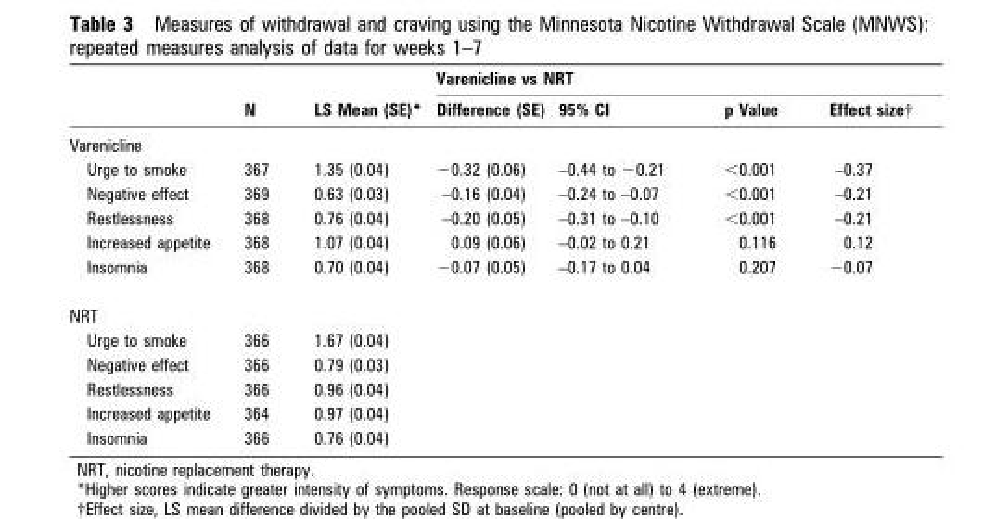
<table><thead><tr><td rowspan="2"></td><td rowspan="2">N</td><td rowspan="2">LS Mean (SE)*</td><td colspan="4">Varenicline vs NRT</td></tr><tr><td>Difference (SE)</td><td>95% CI</td><td>p Value</td><td>Effect size†</td></tr></thead><tbody><tr><td colspan="7">Varenicline</td></tr><tr><td>Urge to smoke</td><td>367</td><td>1.35 (0.04)</td><td>−0.32 (0.06)</td><td>–0.44 to −0.21</td><td>&lt;0.001</td><td>–0.37</td></tr><tr><td>Negative effect</td><td>369</td><td>0.63 (0.03)</td><td>–0.16 (0.04)</td><td>–0.24 to –0.07</td><td>&lt;0.001</td><td>–0.21</td></tr><tr><td>Restlessness</td><td>368</td><td>0.76 (0.04)</td><td>–0.20 (0.05)</td><td>–0.31 to –0.10</td><td>&lt;0.001</td><td>–0.21</td></tr><tr><td>Increased appetite</td><td>368</td><td>1.07 (0.04)</td><td>0.09 (0.06)</td><td>–0.02 to 0.21</td><td>0.116</td><td>0.12</td></tr><tr><td>Insomnia</td><td>368</td><td>0.70 (0.04)</td><td>−0.07 (0.05)</td><td>–0.17 to 0.04</td><td>0.207</td><td>−0.07</td></tr><tr><td colspan="7">NRT</td></tr><tr><td>Urge to smoke</td><td>366</td><td>1.67 (0.04)</td><td></td><td></td><td></td><td></td></tr><tr><td>Negative effect</td><td>366</td><td>0.79 (0.03)</td><td></td><td></td><td></td><td></td></tr><tr><td>Restlessness</td><td>366</td><td>0.96 (0.04)</td><td></td><td></td><td></td><td></td></tr><tr><td>Increased appetite</td><td>364</td><td>0.97 (0.04)</td><td></td><td></td><td></td><td></td></tr><tr><td>Insomnia</td><td>366</td><td>0.76 (0.04)</td><td></td><td></td><td></td><td></td></tr></tbody></table>